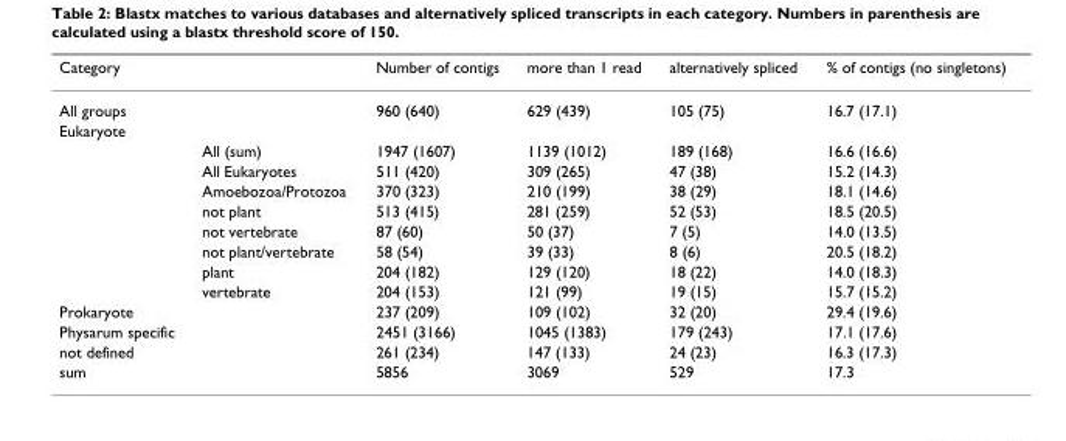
<table><thead><tr><td>Category</td><td></td><td>Number of contigs</td><td>more than 1 read</td><td>alternatively spliced</td><td>% of contigs (no singletons)</td></tr></thead><tbody><tr><td>All groups</td><td></td><td>960 (640)</td><td>629 (439)</td><td>105 (75)</td><td>16.7 (17.1)</td></tr><tr><td colspan="6">Eukaryote</td></tr><tr><td></td><td>All (sum)</td><td>1947 (1607)</td><td>1139 (1012)</td><td>189 (168)</td><td>16.6 (16.6)</td></tr><tr><td></td><td>All Eukaryotes</td><td>511 (420)</td><td>309 (265)</td><td>47 (38)</td><td>15.2 (14.3)</td></tr><tr><td></td><td>Amoebozoa/Protozoa</td><td>370 (323)</td><td>210 (199)</td><td>38 (29)</td><td>18.1 (14.6)</td></tr><tr><td></td><td>not plant</td><td>513 (415)</td><td>281 (259)</td><td>52 (53)</td><td>18.5 (20.5)</td></tr><tr><td></td><td>not vertebrate</td><td>87 (60)</td><td>50 (37)</td><td>7 (5)</td><td>14.0 (13.5)</td></tr><tr><td></td><td>not plant/vertebrate</td><td>58 (54)</td><td>39 (33)</td><td>8 (6)</td><td>20.5 (18.2)</td></tr><tr><td></td><td>plant</td><td>204 (182)</td><td>129 (120)</td><td>18 (22)</td><td>14.0 (18.3)</td></tr><tr><td></td><td>vertebrate</td><td>204 (153)</td><td>121 (99)</td><td>19 (15)</td><td>15.7 (15.2)</td></tr><tr><td>Prokaryote</td><td></td><td>237 (209)</td><td>109 (102)</td><td>32 (20)</td><td>29.4 (19.6)</td></tr><tr><td>Physarum specific</td><td></td><td>2451 (3166)</td><td>1045 (1383)</td><td>179 (243)</td><td>17.1 (17.6)</td></tr><tr><td>not defined</td><td></td><td>261 (234)</td><td>147 (133)</td><td>24 (23)</td><td>16.3 (17.3)</td></tr><tr><td>sum</td><td></td><td>5856</td><td>3069</td><td>529</td><td>17.3</td></tr></tbody></table>